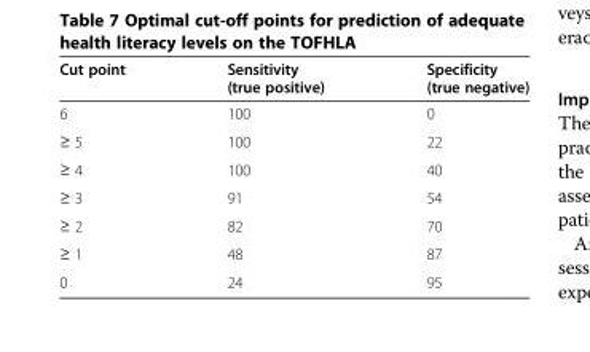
<table><thead><tr><td>Cut point</td><td>Sensitivity (true positive)</td><td>Specificity (true negative)</td></tr></thead><tbody><tr><td>6</td><td>100</td><td>0</td></tr><tr><td>≥ 5</td><td>100</td><td>22</td></tr><tr><td>≥ 4</td><td>100</td><td>40</td></tr><tr><td>≥ 3</td><td>91</td><td>54</td></tr><tr><td>≥ 2</td><td>82</td><td>70</td></tr><tr><td>≥ 1</td><td>48</td><td>87</td></tr><tr><td>0</td><td>24</td><td>95</td></tr></tbody></table>